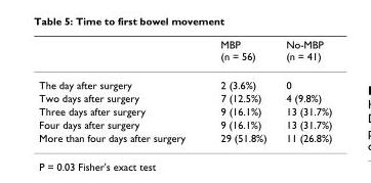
<table><thead><tr><td></td><td>MBP (n = 56)</td><td>No-MBP (n = 41)</td></tr></thead><tbody><tr><td>The day after surgery</td><td>2 (3.6%)</td><td>0</td></tr><tr><td>Two days after surgery</td><td>7 (12.5%)</td><td>4 (9.8%)</td></tr><tr><td>Three days after surgery</td><td>9 (16.1%)</td><td>13 (31.7%)</td></tr><tr><td>Four days after surgery</td><td>9 (16.1%)</td><td>13 (31.7%)</td></tr><tr><td>More than four days after surgery</td><td>29 (51.8%)</td><td>11 (26.8%)</td></tr></tbody></table>